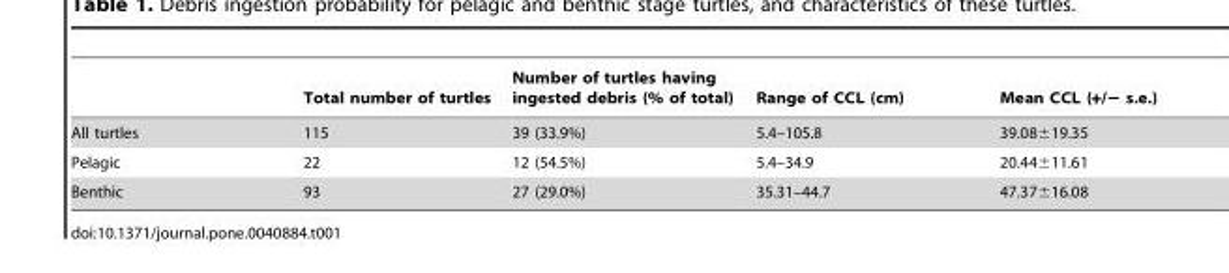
<table><thead><tr><td></td><td>Total number of turtles</td><td>Number of turtles having ingested debris (% of total)</td><td>Range of CCL (cm)</td><td>Mean CCL (+/− s.e.)</td></tr></thead><tbody><tr><td>All turtles</td><td>115</td><td>39 (33.9%)</td><td>5.4–105.8</td><td>39.08±19.35</td></tr><tr><td>Pelagic</td><td>22</td><td>12 (54.5%)</td><td>5.4–34.9</td><td>20.44±11.61</td></tr><tr><td>Benthic</td><td>93</td><td>27 (29.0%)</td><td>35.31–44.7</td><td>47.37±16.08</td></tr></tbody></table>